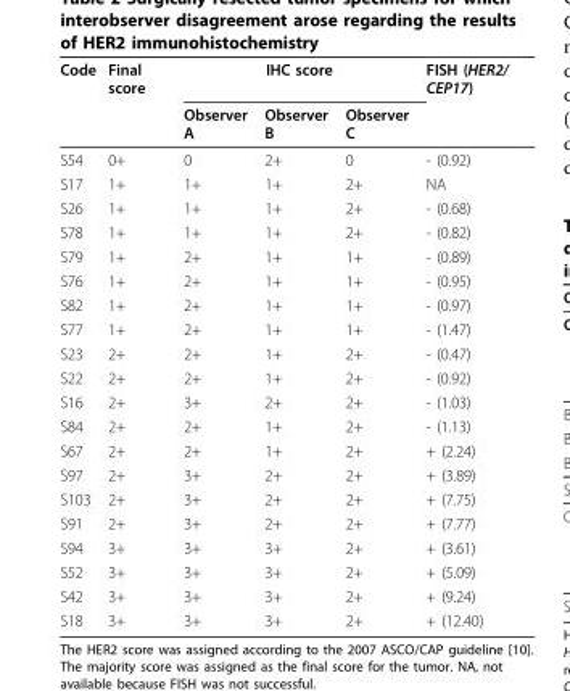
<table><thead><tr><td rowspan="2">Code</td><td rowspan="2">Final score</td><td colspan="3">IHC score</td><td rowspan="2">FISH (HER2/ CEP17)</td></tr><tr><td>Observer A</td><td>Observer B</td><td>Observer C</td></tr></thead><tbody><tr><td>S54</td><td>0+</td><td>0</td><td>2+</td><td>0</td><td>- (0.92)</td></tr><tr><td>S17</td><td>1+</td><td>1+</td><td>1+</td><td>2+</td><td>NA</td></tr><tr><td>S26</td><td>1+</td><td>1+</td><td>1+</td><td>2+</td><td>- (0.68)</td></tr><tr><td>S78</td><td>1+</td><td>1+</td><td>1+</td><td>2+</td><td>- (0.82)</td></tr><tr><td>S79</td><td>1+</td><td>2+</td><td>1+</td><td>1+</td><td>- (0.89)</td></tr><tr><td>S76</td><td>1+</td><td>2+</td><td>1+</td><td>1+</td><td>- (0.95)</td></tr><tr><td>S82</td><td>1+</td><td>2+</td><td>1+</td><td>1+</td><td>- (0.97)</td></tr><tr><td>S77</td><td>1+</td><td>2+</td><td>1+</td><td>1+</td><td>- (1.47)</td></tr><tr><td>S23</td><td>2+</td><td>2+</td><td>1+</td><td>2+</td><td>- (0.47)</td></tr><tr><td>S22</td><td>2+</td><td>2+</td><td>1+</td><td>2+</td><td>- (0.92)</td></tr><tr><td>S16</td><td>2+</td><td>3+</td><td>2+</td><td>2+</td><td>- (1.03)</td></tr><tr><td>S84</td><td>2+</td><td>2+</td><td>1+</td><td>2+</td><td>- (1.13)</td></tr><tr><td>S67</td><td>2+</td><td>2+</td><td>1+</td><td>2+</td><td>+ (2.24)</td></tr><tr><td>S97</td><td>2+</td><td>3+</td><td>2+</td><td>2+</td><td>+ (3.89)</td></tr><tr><td>S103</td><td>2+</td><td>3+</td><td>2+</td><td>2+</td><td>+ (7.75)</td></tr><tr><td>S91</td><td>2+</td><td>3+</td><td>2+</td><td>2+</td><td>+ (7.77)</td></tr><tr><td>S94</td><td>3+</td><td>3+</td><td>3+</td><td>2+</td><td>+ (3.61)</td></tr><tr><td>S52</td><td>3+</td><td>3+</td><td>3+</td><td>2+</td><td>+ (5.09)</td></tr><tr><td>S42</td><td>3+</td><td>3+</td><td>3+</td><td>2+</td><td>+ (9.24)</td></tr><tr><td>S18</td><td>3+</td><td>3+</td><td>3+</td><td>2+</td><td>+ (12.40)</td></tr></tbody></table>